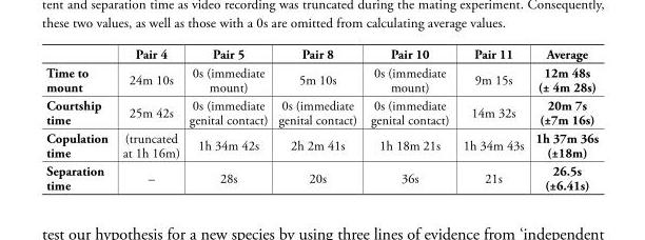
<table><thead><tr><td></td><td>Pair 4</td><td>Pair 5</td><td>Pair 8</td><td>Pair 10</td><td>Pair 11</td><td>Average</td></tr></thead><tbody><tr><td>Time to mount</td><td>24m 10s</td><td>0s (immediate mount)</td><td>5m 10s</td><td>0s (immediate mount)</td><td>9m 15s</td><td>12m 48s (± 4m 28s)</td></tr><tr><td>Courtship time</td><td>25m 42s</td><td>0s (immediate genital contact)</td><td>0s (immediate genital contact)</td><td>0s (immediate genital contact)</td><td>14m 32s</td><td>20m 7s (±7m 16s)</td></tr><tr><td>Copulation time</td><td>(truncated at 1h 16m)</td><td>1h 34m 42s</td><td>2h 2m 41s</td><td>1h 18m 21s</td><td>1h 34m 43s</td><td>1h 37m 36s (±18m)</td></tr><tr><td>Separation time</td><td>–</td><td>28s</td><td>20s</td><td>36s</td><td>21s</td><td>26.5s (±6.41s)</td></tr></tbody></table>